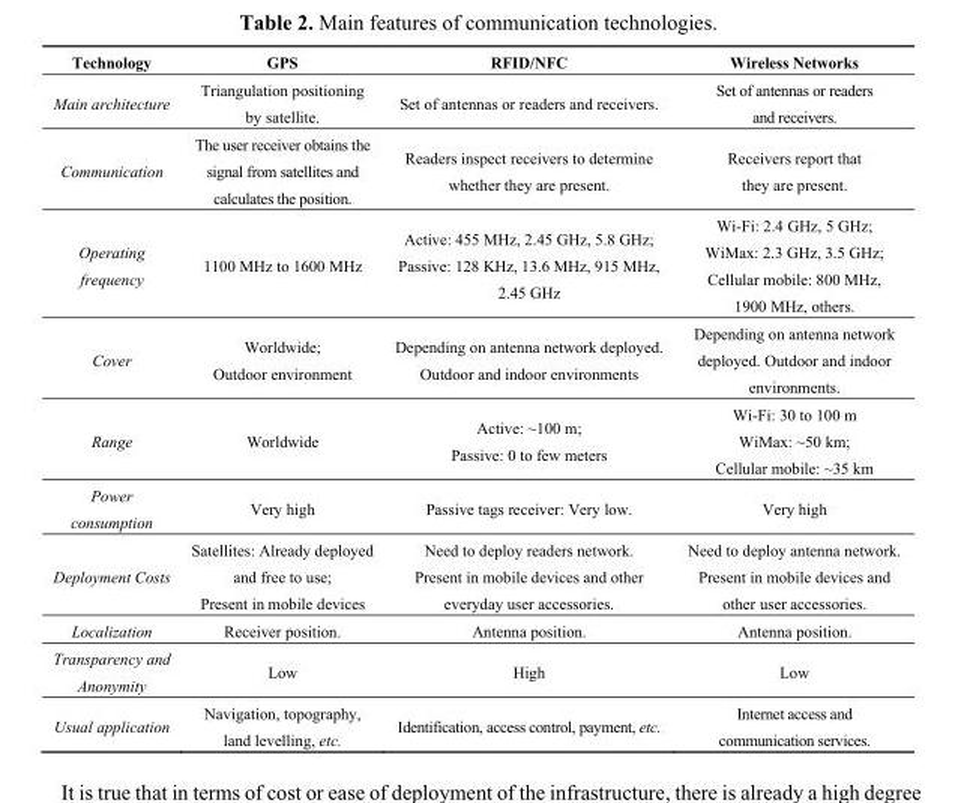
<table><thead><tr><td>Technology</td><td>GPS</td><td>RFID/NFC</td><td>Wireless Networks</td></tr></thead><tbody><tr><td>Main architecture</td><td>Triangulation positioning by satellite.</td><td>Set of antennas or readers and receivers.</td><td>Set of antennas or readers and receivers.</td></tr><tr><td>Communication</td><td>The user receiver obtains the signal from satellites and calculates the position.</td><td>Readers inspect receivers to determine whether they are present.</td><td>Receivers report that they are present.</td></tr><tr><td>Operating frequency</td><td>1100 MHz to 1600 MHz</td><td>Active: 455 MHz, 2.45 GHz, 5.8 GHz; Passive: 128 KHz, 13.6 MHz, 915 MHz, 2.45 GHz</td><td>Wi-Fi: 2.4 GHz, 5 GHz; WiMax: 2.3 GHz, 3.5 GHz; Cellular mobile: 800 MHz, 1900 MHz, others.</td></tr><tr><td>Cover</td><td>Worldwide; Outdoor environment</td><td>Depending on antenna network deployed. Outdoor and indoor environments</td><td>Depending on antenna network deployed. Outdoor and indoor environments.</td></tr><tr><td>Range</td><td>Worldwide</td><td>Active: ~100 m; Passive: 0 to few meters</td><td>Wi-Fi: 30 to 100 m WiMax: ~50 km; Cellular mobile: ~35 km</td></tr><tr><td>Power consumption</td><td>Very high</td><td>Passive tags receiver: Very low.</td><td>Very high</td></tr><tr><td>Deployment Costs</td><td>Satellites: Already deployed and free to use; Present in mobile devices</td><td>Need to deploy readers network. Present in mobile devices and other everyday user accessories.</td><td>Need to deploy antenna network. Present in mobile devices and other user accessories.</td></tr><tr><td>Localization</td><td>Receiver position.</td><td>Antenna position.</td><td>Antenna position.</td></tr><tr><td>Transparency and Anonymity</td><td>Low</td><td>High</td><td>Low</td></tr><tr><td>Usual application</td><td>Navigation, topography, land levelling, etc.</td><td>Identification, access control, payment, etc.</td><td>Internet access and communication services.</td></tr></tbody></table>